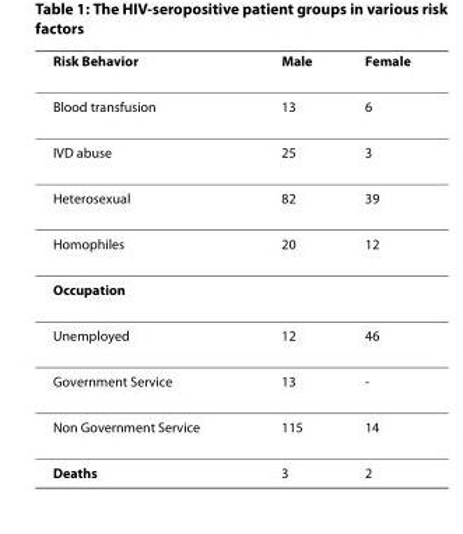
<table><thead><tr><td>Risk Behavior</td><td>Male</td><td>Female</td></tr></thead><tbody><tr><td>Blood transfusion</td><td>13</td><td>6</td></tr><tr><td>IVD abuse</td><td>25</td><td>3</td></tr><tr><td>Heterosexual</td><td>82</td><td>39</td></tr><tr><td>Homophiles</td><td>20</td><td>12</td></tr><tr><td colspan="3">Occupation</td></tr><tr><td>Unemployed</td><td>12</td><td>46</td></tr><tr><td>Government Service</td><td>13</td><td>-</td></tr><tr><td>Non Government Service</td><td>115</td><td>14</td></tr><tr><td>Deaths</td><td>3</td><td>2</td></tr></tbody></table>